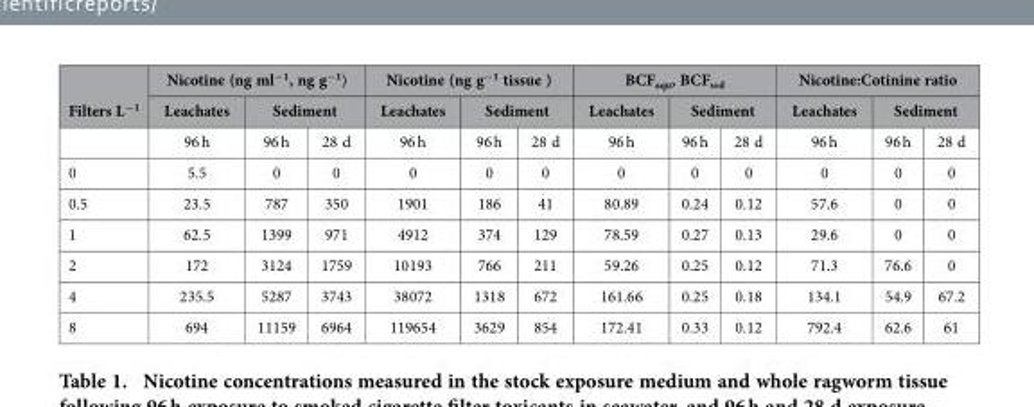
<table><thead><tr><td rowspan="3">Filters L<sup>−1</sup></td><td colspan="3">Nicotine (ng ml<sup>−1</sup>, ng g<sup>−1</sup>)</td><td colspan="3">Nicotine (ng g<sup>−1</sup> tissue )</td><td colspan="3">BCF<sub>aqu</sub>, BCF<sub>sed</sub></td><td colspan="3">Nicotine:Cotinine ratio</td></tr><tr><td rowspan="2">Leachates 96 h</td><td colspan="2">Sediment</td><td rowspan="2">Leachates 96 h</td><td colspan="2">Sediment</td><td rowspan="2">Leachates 96 h</td><td colspan="2">Sediment</td><td rowspan="2">Leachates 96 h</td><td colspan="2">Sediment</td></tr><tr><td>96 h</td><td>28 d</td><td>96 h</td><td>28 d</td><td>96 h</td><td>28 d</td><td>96 h</td><td>28 d</td></tr></thead><tbody><tr><td>0</td><td>5.5</td><td>0</td><td>0</td><td>0</td><td>0</td><td>0</td><td>0</td><td>0</td><td>0</td><td>0</td><td>0</td><td>0</td></tr><tr><td>0.5</td><td>23.5</td><td>787</td><td>350</td><td>1901</td><td>186</td><td>41</td><td>80.89</td><td>0.24</td><td>0.12</td><td>57.6</td><td>0</td><td>0</td></tr><tr><td>1</td><td>62.5</td><td>1399</td><td>971</td><td>4912</td><td>374</td><td>129</td><td>78.59</td><td>0.27</td><td>0.13</td><td>29.6</td><td>0</td><td>0</td></tr><tr><td>2</td><td>172</td><td>3124</td><td>1759</td><td>10193</td><td>766</td><td>211</td><td>59.26</td><td>0.25</td><td>0.12</td><td>71.3</td><td>76.6</td><td>0</td></tr><tr><td>4</td><td>235.5</td><td>5287</td><td>3743</td><td>38072</td><td>1318</td><td>672</td><td>161.66</td><td>0.25</td><td>0.18</td><td>134.1</td><td>54.9</td><td>67.2</td></tr><tr><td>8</td><td>694</td><td>11159</td><td>6964</td><td>119654</td><td>3629</td><td>854</td><td>172.41</td><td>0.33</td><td>0.12</td><td>792.4</td><td>62.6</td><td>61</td></tr></tbody></table>